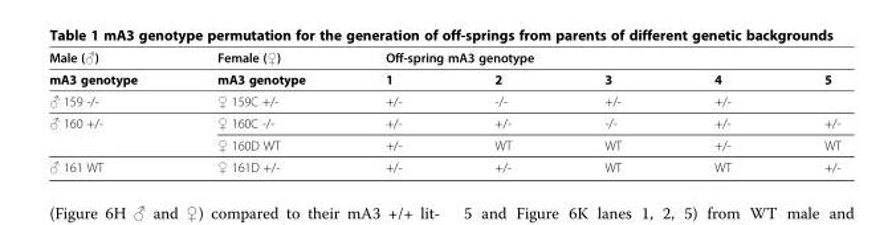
<table><thead><tr><td rowspan="2">Male (♂) mA3 genotype</td><td rowspan="2">Female (♀) mA3 genotype</td><td colspan="5">Off-spring mA3 genotype</td></tr><tr><td>1</td><td>2</td><td>3</td><td>4</td><td>5</td></tr></thead><tbody><tr><td>♂ 159 -/-</td><td>♀ 159C +/-</td><td>+/-</td><td>-/-</td><td>+/-</td><td>+/-</td><td></td></tr><tr><td rowspan="2">♂ 160 +/-</td><td>♀ 160C -/-</td><td>+/-</td><td>+/-</td><td>-/-</td><td>+/-</td><td>+/-</td></tr><tr><td>♀ 160D WT</td><td>+/-</td><td>WT</td><td>WT</td><td>+/-</td><td>WT</td></tr><tr><td>♂ 161 WT</td><td>♀ 161D +/-</td><td>+/-</td><td>+/-</td><td>WT</td><td>WT</td><td>+/-</td></tr></tbody></table>